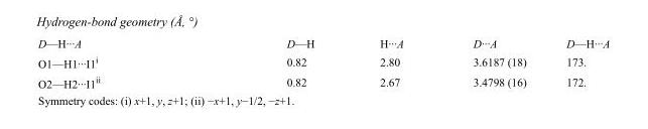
<table><tbody><tr><td>D—H···A</td><td>D—H</td><td>H···A</td><td>D···A</td><td>D—H···A</td></tr><tr><td>O1—H1···I1<sup>i</sup></td><td>0.82</td><td>2.80</td><td>3.6187 (18)</td><td>173.</td></tr><tr><td>O2—H2···I1<sup>ii</sup></td><td>0.82</td><td>2.67</td><td>3.4798 (16)</td><td>172.</td></tr></tbody></table>